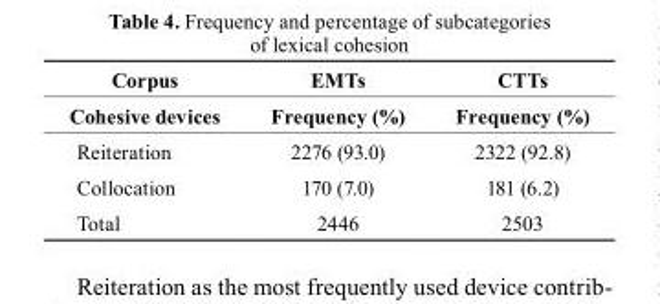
<table><thead><tr><td rowspan="2">corpus cohesive devices</td><td rowspan="2">EMts Frequency (%)</td><td rowspan="2">ctts Frequency (%)</td></tr><tr></tr></thead><tbody><tr><td>Reiteration</td><td>2276 (93.0)</td><td>2322 (92.8)</td></tr><tr><td>Collocation</td><td>170 (7.0)</td><td>181 (6.2)</td></tr><tr><td>Total</td><td>2446</td><td>2503</td></tr></tbody></table>